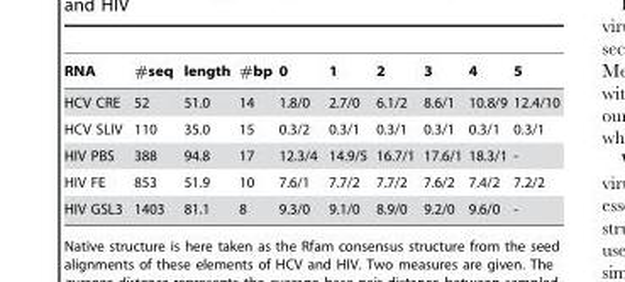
<table><thead><tr><td>RNA</td><td>#seq</td><td>length</td><td>#bp</td><td>0</td><td>1</td><td>2</td><td>3</td><td>4</td><td>5</td></tr></thead><tbody><tr><td>HCV CRE</td><td>52</td><td>51.0</td><td>14</td><td>1.8/0</td><td>2.7/0</td><td>6.1/2</td><td>8.6/1</td><td>10.8/9</td><td>12.4/10</td></tr><tr><td>HCV SLIV</td><td>110</td><td>35.0</td><td>15</td><td>0.3/2</td><td>0.3/1</td><td>0.3/1</td><td>0.3/1</td><td>0.3/1</td><td>0.3/1</td></tr><tr><td>HIV PBS</td><td>388</td><td>94.8</td><td>17</td><td>12.3/4</td><td>14.9/5</td><td>16.7/1</td><td>17.6/1</td><td>18.3/1</td><td>-</td></tr><tr><td>HIV FE</td><td>853</td><td>51.9</td><td>10</td><td>7.6/1</td><td>7.7/2</td><td>7.7/2</td><td>7.6/2</td><td>7.4/2</td><td>7.2/2</td></tr><tr><td>HIV GSL3</td><td>1403</td><td>81.1</td><td>8</td><td>9.3/0</td><td>9.1/0</td><td>8.9/0</td><td>9.2/0</td><td>9.6/0</td><td>-</td></tr></tbody></table>